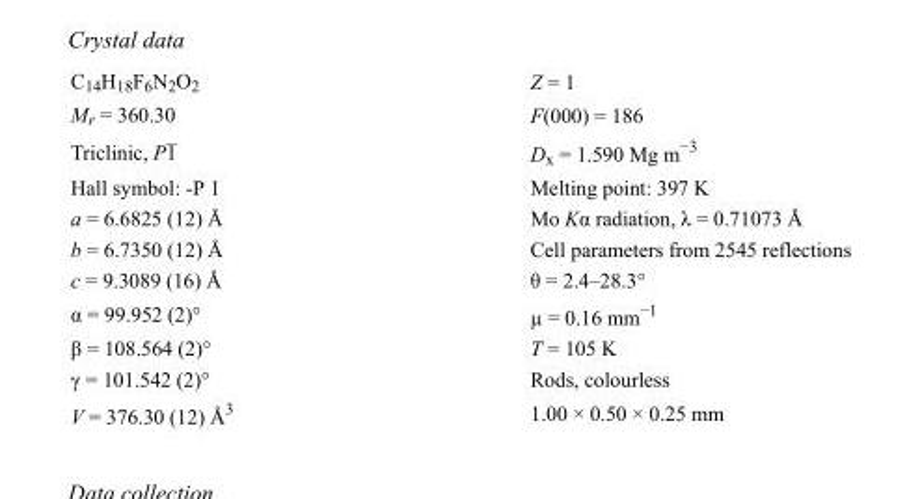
<table><tbody><tr><td>C<sub>14</sub>H<sub>18</sub>F<sub>6</sub>N<sub>2</sub>O<sub>2</sub></td><td>Z = 1</td></tr><tr><td>M<sub>r</sub> = 360.30</td><td>F(000) = 186</td></tr><tr><td>Triclinic, P1</td><td>D<sub>x</sub> = 1.590 Mg m<sup>−3</sup></td></tr><tr><td>Hall symbol: -P 1</td><td>Melting point: 397 K</td></tr><tr><td>a = 6.6825 (12) Å</td><td>Mo Kα radiation, λ = 0.71073 Å</td></tr><tr><td>b = 6.7350 (12) Å</td><td>Cell parameters from 2545 reflections</td></tr><tr><td>c = 9.3089 (16) Å</td><td>θ = 2.4–28.3°</td></tr><tr><td>α = 99.952 (2)°</td><td>µ = 0.16 mm<sup>−1</sup></td></tr><tr><td>β = 108.564 (2)°</td><td>T = 105 K</td></tr><tr><td>γ = 101.542 (2)°</td><td>Rods, colourless</td></tr><tr><td>V = 376.30 (12) Å<sup>3</sup></td><td>1.00 × 0.50 × 0.25 mm</td></tr></tbody></table>